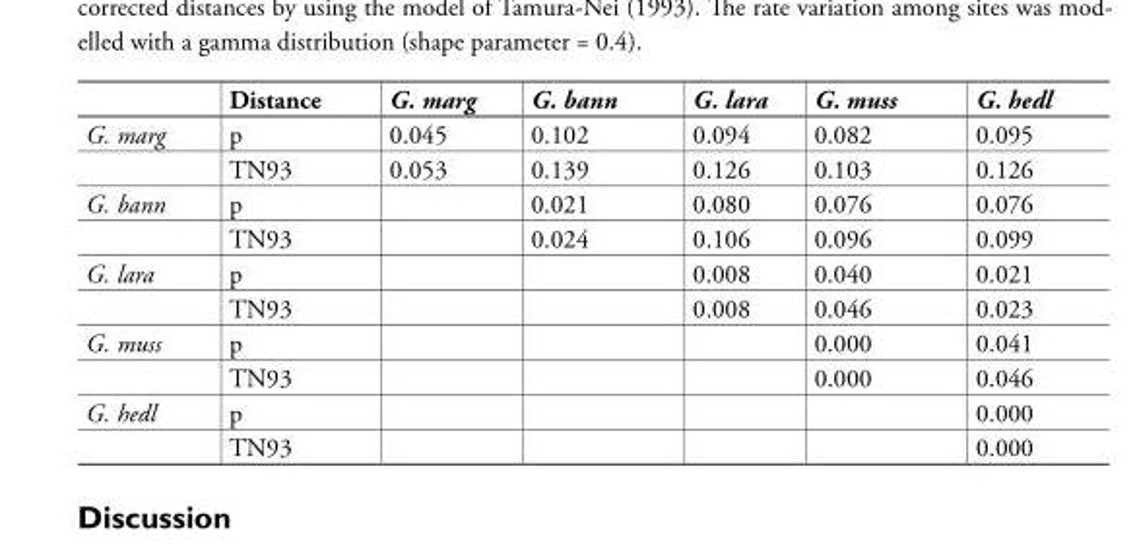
<table><thead><tr><td></td><td>Distance</td><td>G. marg</td><td>G. bann</td><td>G. lara</td><td>G. muss</td><td>G. hedl</td></tr></thead><tbody><tr><td rowspan="2">G. marg</td><td>p</td><td>0.045</td><td>0.102</td><td>0.094</td><td>0.082</td><td>0.095</td></tr><tr><td>TN93</td><td>0.053</td><td>0.139</td><td>0.126</td><td>0.103</td><td>0.126</td></tr><tr><td rowspan="2">G. bann</td><td>p</td><td></td><td>0.021</td><td>0.080</td><td>0.076</td><td>0.076</td></tr><tr><td>TN93</td><td></td><td>0.024</td><td>0.106</td><td>0.096</td><td>0.099</td></tr><tr><td rowspan="2">G. lara</td><td>p</td><td></td><td></td><td>0.008</td><td>0.040</td><td>0.021</td></tr><tr><td>TN93</td><td></td><td></td><td>0.008</td><td>0.046</td><td>0.023</td></tr><tr><td rowspan="2">G. muss</td><td>p</td><td></td><td></td><td></td><td>0.000</td><td>0.041</td></tr><tr><td>TN93</td><td></td><td></td><td></td><td>0.000</td><td>0.046</td></tr><tr><td rowspan="2">G. hedl</td><td>p</td><td></td><td></td><td></td><td></td><td>0.000</td></tr><tr><td>TN93</td><td></td><td></td><td></td><td></td><td>0.000</td></tr></tbody></table>